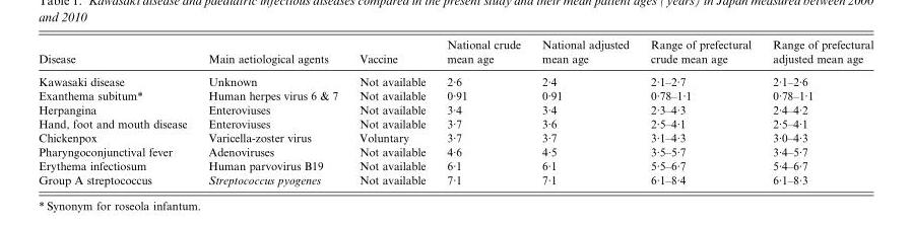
<table><thead><tr><td>Disease</td><td>Main aetiological agents</td><td>Vaccine</td><td>National crude mean age</td><td>National adjusted mean age</td><td>Range of prefectural crude mean age</td><td>Range of prefectural adjusted mean age</td></tr></thead><tbody><tr><td>Kawasaki disease</td><td>Unknown</td><td>Not available</td><td>2·6</td><td>2·4</td><td>2·1–2·7</td><td>2·1–2·6</td></tr><tr><td>Exanthema subitum*</td><td>Human herpes virus 6 &amp; 7</td><td>Not available</td><td>0·91</td><td>0·91</td><td>0·78–1·1</td><td>0·78–1·1</td></tr><tr><td>Herpangina</td><td>Enteroviuses</td><td>Not available</td><td>3·4</td><td>3·4</td><td>2·3–4·3</td><td>2·4–4·2</td></tr><tr><td>Hand, foot and mouth disease</td><td>Enteroviuses</td><td>Not available</td><td>3·7</td><td>3·6</td><td>2·5–4·1</td><td>2·5–4·1</td></tr><tr><td>Chickenpox</td><td>Varicella-zoster virus</td><td>Voluntary</td><td>3·7</td><td>3·7</td><td>3·1–4·3</td><td>3·0–4·3</td></tr><tr><td>Pharyngoconjunctival fever</td><td>Adenoviruses</td><td>Not available</td><td>4·6</td><td>4·5</td><td>3·5–5·7</td><td>3·4–5·7</td></tr><tr><td>Erythema infectiosum</td><td>Human parvovirus B19</td><td>Not available</td><td>6·1</td><td>6·1</td><td>5·5–6·7</td><td>5·4–6·7</td></tr><tr><td>Group A streptococcus</td><td>Streptococcus pyogenes</td><td>Not available</td><td>7·1</td><td>7·1</td><td>6·1–8·4</td><td>6·1–8·3</td></tr></tbody></table>